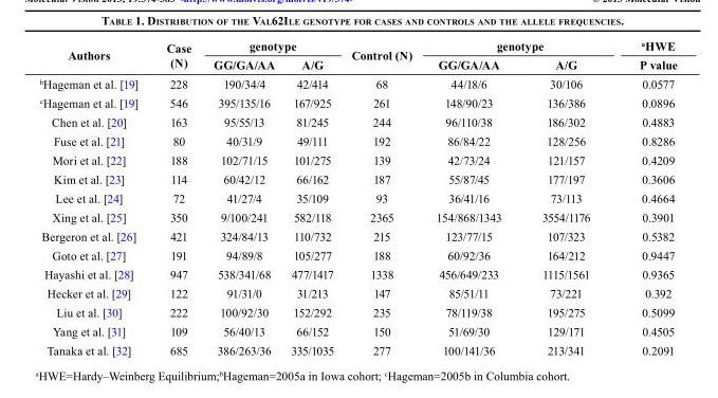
<table><thead><tr><td rowspan="2">Authors</td><td rowspan="2">Case (N)</td><td colspan="2">genotype</td><td rowspan="2">Control (N)</td><td colspan="2">genotype</td><td rowspan="2"><sup>a</sup>HWE P value</td></tr><tr><td>GG/GA/AA</td><td>A/G</td><td>GG/GA/AA</td><td>A/G</td></tr></thead><tbody><tr><td><sup>b</sup>Hageman et al. [19]</td><td>228</td><td>190/34/4</td><td>42/414</td><td>68</td><td>44/18/6</td><td>30/106</td><td>0.0577</td></tr><tr><td><sup>c</sup>Hageman et al. [19]</td><td>546</td><td>395/135/16</td><td>167/925</td><td>261</td><td>148/90/23</td><td>136/386</td><td>0.0896</td></tr><tr><td>Chen et al. [20]</td><td>163</td><td>95/55/13</td><td>81/245</td><td>244</td><td>96/110/38</td><td>186/302</td><td>0.4883</td></tr><tr><td>Fuse et al. [21]</td><td>80</td><td>40/31/9</td><td>49/111</td><td>192</td><td>86/84/22</td><td>128/256</td><td>0.8286</td></tr><tr><td>Mori et al. [22]</td><td>188</td><td>102/71/15</td><td>101/275</td><td>139</td><td>42/73/24</td><td>121/157</td><td>0.4209</td></tr><tr><td>Kim et al. [23]</td><td>114</td><td>60/42/12</td><td>66/162</td><td>187</td><td>55/87/45</td><td>177/197</td><td>0.3606</td></tr><tr><td>Lee et al. [24]</td><td>72</td><td>41/27/4</td><td>35/109</td><td>93</td><td>36/41/16</td><td>73/113</td><td>0.4664</td></tr><tr><td>Xing et al. [25]</td><td>350</td><td>9/100/241</td><td>582/118</td><td>2365</td><td>154/868/1343</td><td>3554/1176</td><td>0.3901</td></tr><tr><td>Bergeron et al. [26]</td><td>421</td><td>324/84/13</td><td>110/732</td><td>215</td><td>123/77/15</td><td>107/323</td><td>0.5382</td></tr><tr><td>Goto et al. [27]</td><td>191</td><td>94/89/8</td><td>105/277</td><td>188</td><td>60/92/36</td><td>164/212</td><td>0.9447</td></tr><tr><td>Hayashi et al. [28]</td><td>947</td><td>538/341/68</td><td>477/1417</td><td>1338</td><td>456/649/233</td><td>1115/1561</td><td>0.9365</td></tr><tr><td>Hecker et al. [29]</td><td>122</td><td>91/31/0</td><td>31/213</td><td>147</td><td>85/51/11</td><td>73/221</td><td>0.392</td></tr><tr><td>Liu et al. [30]</td><td>222</td><td>100/92/30</td><td>152/292</td><td>235</td><td>78/119/38</td><td>195/275</td><td>0.5099</td></tr><tr><td>Yang et al. [31]</td><td>109</td><td>56/40/13</td><td>66/152</td><td>150</td><td>51/69/30</td><td>129/171</td><td>0.4505</td></tr><tr><td>Tanaka et al. [32]</td><td>685</td><td>386/263/36</td><td>335/1035</td><td>277</td><td>100/141/36</td><td>213/341</td><td>0.2091</td></tr></tbody></table>